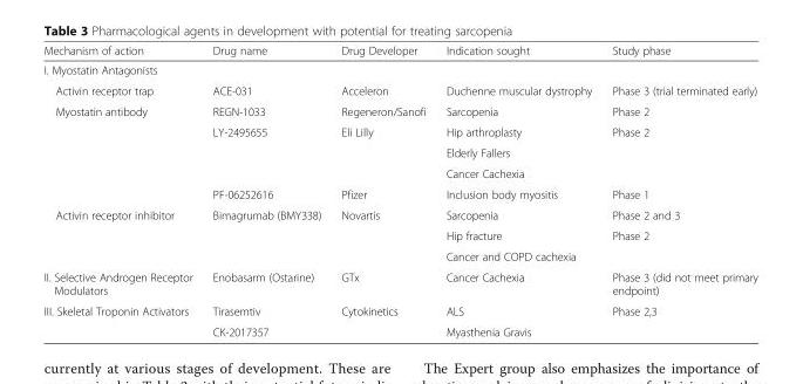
<table><thead><tr><td>Mechanism of action</td><td>Drug name</td><td>Drug Developer</td><td>Indication sought</td><td>Study phase</td></tr></thead><tbody><tr><td colspan="5">I. Myostatin Antagonists</td></tr><tr><td>Activin receptor trap</td><td>ACE-031</td><td>Acceleron</td><td>Duchenne muscular dystrophy</td><td>Phase 3 (trial terminated early)</td></tr><tr><td rowspan="5">Myostatin antibody</td><td>REGN-1033</td><td>Regeneron/Sanofi</td><td>Sarcopenia</td><td>Phase 2</td></tr><tr><td rowspan="3">LY-2495655</td><td rowspan="3">Eli Lilly</td><td>Hip arthroplasty</td><td rowspan="3">Phase 2</td></tr><tr><td>Elderly Fallers</td></tr><tr><td>Cancer Cachexia</td></tr><tr><td>PF-06252616</td><td>Pfizer</td><td>Inclusion body myositis</td><td>Phase 1</td></tr><tr><td rowspan="3">Activin receptor inhibitor</td><td rowspan="3">Bimagrumab (BMY338)</td><td rowspan="3">Novartis</td><td>Sarcopenia</td><td>Phase 2 and 3</td></tr><tr><td>Hip fracture</td><td>Phase 2</td></tr><tr><td>Cancer and COPD cachexia</td><td></td></tr><tr><td>II. Selective Androgen Receptor Modulators</td><td>Enobasarm (Ostarine)</td><td>GTx</td><td>Cancer Cachexia</td><td>Phase 3 (did not meet primary endpoint)</td></tr><tr><td rowspan="2">III. Skeletal Troponin Activators</td><td>Tirasemtiv</td><td rowspan="2">Cytokinetics</td><td>ALS</td><td rowspan="2">Phase 2,3</td></tr><tr><td>CK-2017357</td><td>Myasthenia Gravis</td></tr></tbody></table>